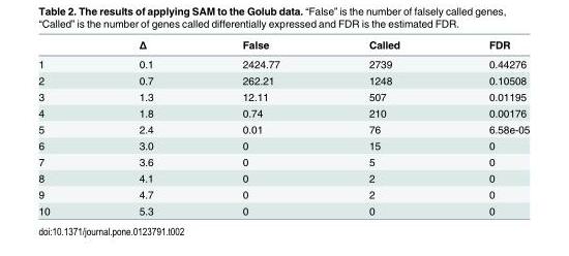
<table><thead><tr><td></td><td>Δ</td><td>False</td><td>Called</td><td>FDR</td></tr></thead><tbody><tr><td>1</td><td>0.1</td><td>2424.77</td><td>2739</td><td>0.44276</td></tr><tr><td>2</td><td>0.7</td><td>262.21</td><td>1248</td><td>0.10508</td></tr><tr><td>3</td><td>1.3</td><td>12.11</td><td>507</td><td>0.01195</td></tr><tr><td>4</td><td>1.8</td><td>0.74</td><td>210</td><td>0.00176</td></tr><tr><td>5</td><td>2.4</td><td>0.01</td><td>76</td><td>6.58e-05</td></tr><tr><td>6</td><td>3.0</td><td>0</td><td>15</td><td>0</td></tr><tr><td>7</td><td>3.6</td><td>0</td><td>5</td><td>0</td></tr><tr><td>8</td><td>4.1</td><td>0</td><td>2</td><td>0</td></tr><tr><td>9</td><td>4.7</td><td>0</td><td>2</td><td>0</td></tr><tr><td>10</td><td>5.3</td><td>0</td><td>0</td><td>0</td></tr></tbody></table>